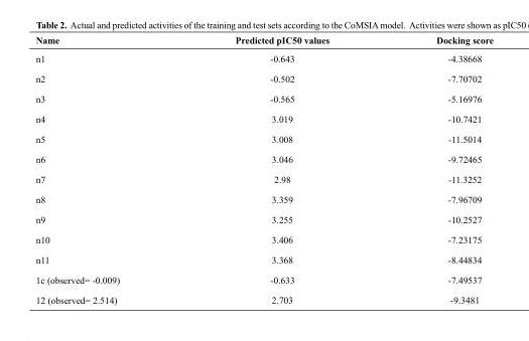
<table><thead><tr><td>Name</td><td>Predicted pIC50 values</td><td>Docking score</td></tr></thead><tbody><tr><td>n1</td><td>-0.643</td><td>-4.38668</td></tr><tr><td>n2</td><td>-0.502</td><td>-7.70702</td></tr><tr><td>n3</td><td>-0.565</td><td>-5.16976</td></tr><tr><td>n4</td><td>3.019</td><td>-10.7421</td></tr><tr><td>n5</td><td>3.008</td><td>-11.5014</td></tr><tr><td>n6</td><td>3.046</td><td>-9.72465</td></tr><tr><td>n7</td><td>2.98</td><td>-11.3252</td></tr><tr><td>n8</td><td>3.359</td><td>-7.96709</td></tr><tr><td>n9</td><td>3.255</td><td>-10.2527</td></tr><tr><td>n10</td><td>3.406</td><td>-7.23175</td></tr><tr><td>n11</td><td>3.368</td><td>-8.44834</td></tr><tr><td>1c (observed= -0.009)</td><td>-0.633</td><td>-7.49537</td></tr><tr><td>12 (observed= 2.514)</td><td>2.703</td><td>-9.3481</td></tr></tbody></table>